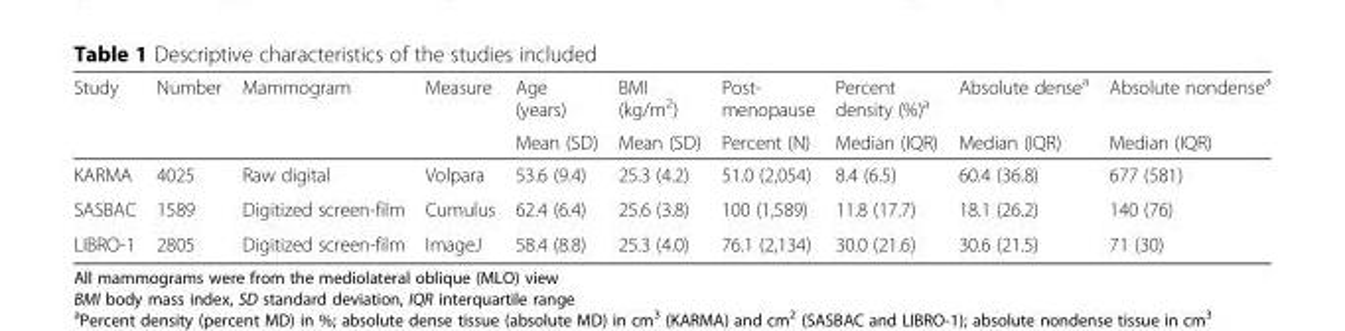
<table><thead><tr><td rowspan="2">Study</td><td rowspan="2">Number</td><td rowspan="2">Mammogram</td><td rowspan="2">Measure</td><td rowspan="2">Age (years) Mean (SD)</td><td rowspan="2">BMI (kg/m<sup>2</sup>) Mean (SD)</td><td rowspan="2">Post- menopause Percent (N)</td><td rowspan="2">Percent density (%)<sup>a</sup> Median (IQR)</td><td rowspan="2">Absolute dense<sup>a</sup> Median (IQR)</td><td rowspan="2">Absolute nondense<sup>a</sup> Median (IQR)</td></tr><tr></tr></thead><tbody><tr><td>KARMA</td><td>4025</td><td>Raw digital</td><td>Volpara</td><td>53.6 (9.4)</td><td>25.3 (4.2)</td><td>51.0 (2,054)</td><td>8.4 (6.5)</td><td>60.4 (36.8)</td><td>677 (581)</td></tr><tr><td>SASBAC</td><td>1589</td><td>Digitized screen-film</td><td>Cumulus</td><td>62.4 (6.4)</td><td>25.6 (3.8)</td><td>100 (1,589)</td><td>11.8 (17.7)</td><td>18.1 (26.2)</td><td>140 (76)</td></tr><tr><td>LIBRO-1</td><td>2805</td><td>Digitized screen-film</td><td>ImageJ</td><td>58.4 (8.8)</td><td>25.3 (4.0)</td><td>76.1 (2,134)</td><td>30.0 (21.6)</td><td>30.6 (21.5)</td><td>71 (30)</td></tr></tbody></table>